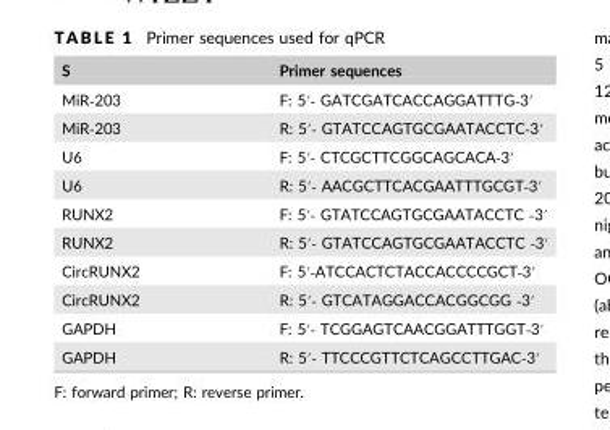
<table><thead><tr><td>S</td><td>Primer sequences</td></tr></thead><tbody><tr><td>MiR‐203</td><td>F: 5′‐ GATCGATCACCAGGATTTG‐3′</td></tr><tr><td>MiR‐203</td><td>R: 5′‐ GTATCCAGTGCGAATACCTC‐3′</td></tr><tr><td>U6</td><td>F: 5′‐ CTCGCTTCGGCAGCACA‐3′</td></tr><tr><td>U6</td><td>R: 5′‐ AACGCTTCACGAATTTGCGT‐3′</td></tr><tr><td>RUNX2</td><td>F: 5′‐ GTATCCAGTGCGAATACCTC ‐3′</td></tr><tr><td>RUNX2</td><td>R: 5′‐ GTATCCAGTGCGAATACCTC ‐3′</td></tr><tr><td>CircRUNX2</td><td>F: 5′‐ATCCACTCTACCACCCCGCT‐3′</td></tr><tr><td>CircRUNX2</td><td>R: 5′‐ GTCATAGGACCACGGCGG ‐3′</td></tr><tr><td>GAPDH</td><td>F: 5′‐ TCGGAGTCAACGGATTTGGT‐3′</td></tr><tr><td>GAPDH</td><td>R: 5′‐ TTCCCGTTCTCAGCCTTGAC‐3′</td></tr></tbody></table>